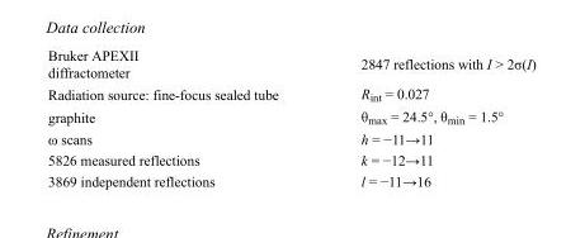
<table><tbody><tr><td>Bruker APEXII diffractometer</td><td>2847 reflections with I &gt; 2σ(I)</td></tr><tr><td>Radiation source: fine-focus sealed tube</td><td>R<sub>int</sub> = 0.027</td></tr><tr><td>graphite</td><td>θ<sub>max</sub> = 24.5°, θ<sub>min</sub> = 1.5°</td></tr><tr><td>ω scans</td><td>h = −11→11</td></tr><tr><td>5826 measured reflections</td><td>k = −12→11</td></tr><tr><td>3869 independent reflections</td><td>l = −11→16</td></tr></tbody></table>